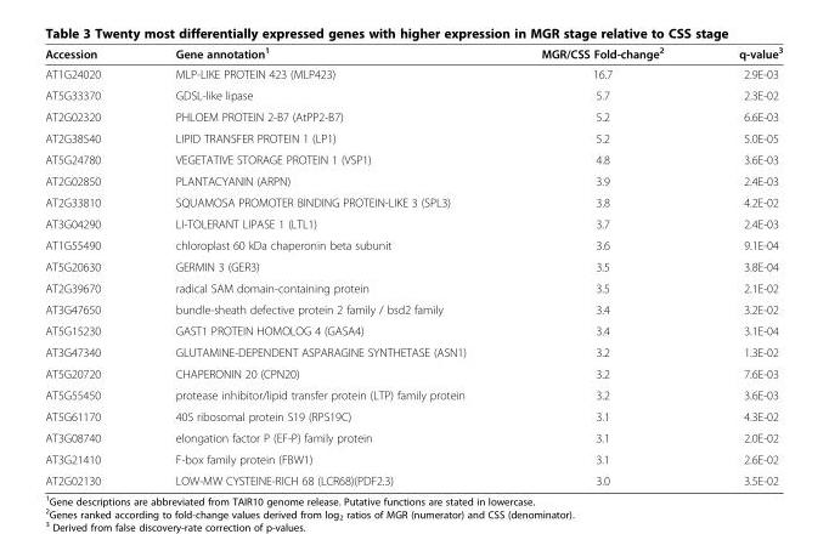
<table><thead><tr><td>Accession</td><td>Gene annotation<sup>1</sup></td><td>MGR/CSS Fold-change<sup>2</sup></td><td>q-value<sup>3</sup></td></tr></thead><tbody><tr><td>AT1G24020</td><td>MLP-LIKE PROTEIN 423 (MLP423)</td><td>16.7</td><td>2.9E-03</td></tr><tr><td>AT5G33370</td><td>GDSL-like lipase</td><td>5.7</td><td>2.3E-02</td></tr><tr><td>AT2G02320</td><td>PHLOEM PROTEIN 2-B7 (AtPP2-B7)</td><td>5.2</td><td>6.6E-03</td></tr><tr><td>AT2G38540</td><td>LIPID TRANSFER PROTEIN 1 (LP1)</td><td>5.2</td><td>5.0E-05</td></tr><tr><td>AT5G24780</td><td>VEGETATIVE STORAGE PROTEIN 1 (VSP1)</td><td>4.8</td><td>3.6E-03</td></tr><tr><td>AT2G02850</td><td>PLANTACYANIN (ARPN)</td><td>3.9</td><td>2.4E-03</td></tr><tr><td>AT2G33810</td><td>SQUAMOSA PROMOTER BINDING PROTEIN-LIKE 3 (SPL3)</td><td>3.8</td><td>4.2E-02</td></tr><tr><td>AT3G04290</td><td>LI-TOLERANT LIPASE 1 (LTL1)</td><td>3.7</td><td>2.4E-03</td></tr><tr><td>AT1G55490</td><td>chloroplast 60 kDa chaperonin beta subunit</td><td>3.6</td><td>9.1E-04</td></tr><tr><td>AT5G20630</td><td>GERMIN 3 (GER3)</td><td>3.5</td><td>3.8E-04</td></tr><tr><td>AT2G39670</td><td>radical SAM domain-containing protein</td><td>3.5</td><td>2.1E-02</td></tr><tr><td>AT3G47650</td><td>bundle-sheath defective protein 2 family / bsd2 family</td><td>3.4</td><td>3.2E-02</td></tr><tr><td>AT5G15230</td><td>GAST1 PROTEIN HOMOLOG 4 (GASA4)</td><td>3.4</td><td>3.1E-04</td></tr><tr><td>AT3G47340</td><td>GLUTAMINE-DEPENDENT ASPARAGINE SYNTHETASE (ASN1)</td><td>3.2</td><td>1.3E-02</td></tr><tr><td>AT5G20720</td><td>CHAPERONIN 20 (CPN20)</td><td>3.2</td><td>7.6E-03</td></tr><tr><td>AT5G55450</td><td>protease inhibitor/lipid transfer protein (LTP) family protein</td><td>3.2</td><td>3.6E-03</td></tr><tr><td>AT5G61170</td><td>40S ribosomal protein S19 (RPS19C)</td><td>3.1</td><td>4.3E-02</td></tr><tr><td>AT3G08740</td><td>elongation factor P (EF-P) family protein</td><td>3.1</td><td>2.0E-02</td></tr><tr><td>AT3G21410</td><td>F-box family protein (FBW1)</td><td>3.1</td><td>2.6E-02</td></tr><tr><td>AT2G02130</td><td>LOW-MW CYSTEINE-RICH 68 (LCR68)(PDF2.3)</td><td>3.0</td><td>3.5E-02</td></tr></tbody></table>